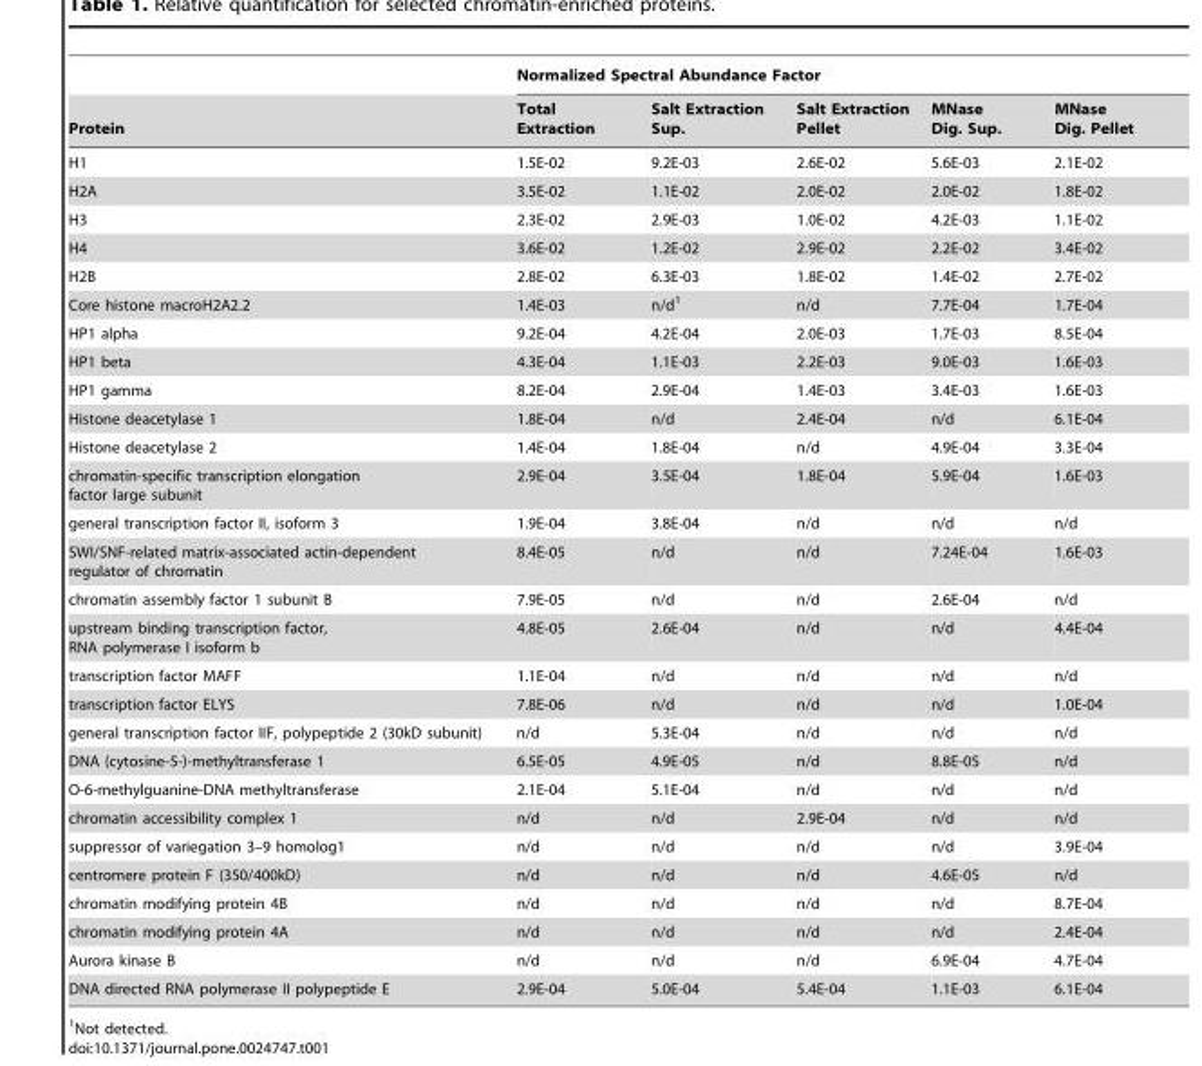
<table><thead><tr><td rowspan="2">Protein</td><td colspan="5">Normalized Spectral Abundance Factor</td></tr><tr><td>Total Extraction</td><td>Salt Extraction Sup.</td><td>Salt Extraction Pellet</td><td>MNase Dig. Sup.</td><td>MNase Dig. Pellet</td></tr></thead><tbody><tr><td>H1</td><td>1.5E-02</td><td>9.2E-03</td><td>2.6E-02</td><td>5.6E-03</td><td>2.1E-02</td></tr><tr><td>H2A</td><td>3.5E-02</td><td>1.1E-02</td><td>2.0E-02</td><td>2.0E-02</td><td>1.8E-02</td></tr><tr><td>H3</td><td>2.3E-02</td><td>2.9E-03</td><td>1.0E-02</td><td>4.2E-03</td><td>1.1E-02</td></tr><tr><td>H4</td><td>3.6E-02</td><td>1.2E-02</td><td>2.9E-02</td><td>2.2E-02</td><td>3.4E-02</td></tr><tr><td>H2B</td><td>2.8E-02</td><td>6.3E-03</td><td>1.8E-02</td><td>1.4E-02</td><td>2.7E-02</td></tr><tr><td>Core histone macroH2A2.2</td><td>1.4E-03</td><td>n/d<sup>1</sup></td><td>n/d</td><td>7.7E-04</td><td>1.7E-04</td></tr><tr><td>HP1 alpha</td><td>9.2E-04</td><td>4.2E-04</td><td>2.0E-03</td><td>1.7E-03</td><td>8.5E-04</td></tr><tr><td>HP1 beta</td><td>4.3E-04</td><td>1.1E-03</td><td>2.2E-03</td><td>9.0E-03</td><td>1.6E-03</td></tr><tr><td>HP1 gamma</td><td>8.2E-04</td><td>2.9E-04</td><td>1.4E-03</td><td>3.4E-03</td><td>1.6E-03</td></tr><tr><td>Histone deacetylase 1</td><td>1.8E-04</td><td>n/d</td><td>2.4E-04</td><td>n/d</td><td>6.1E-04</td></tr><tr><td>Histone deacetylase 2</td><td>1.4E-04</td><td>1.8E-04</td><td>n/d</td><td>4.9E-04</td><td>3.3E-04</td></tr><tr><td>chromatin-specific transcription elongation factor large subunit</td><td>2.9E-04</td><td>3.5E-04</td><td>1.8E-04</td><td>5.9E-04</td><td>1.6E-03</td></tr><tr><td>general transcription factor II, isoform 3</td><td>1.9E-04</td><td>3.8E-04</td><td>n/d</td><td>n/d</td><td>n/d</td></tr><tr><td>SWI/SNF-related matrix-associated actin-dependent regulator of chromatin</td><td>8.4E-05</td><td>n/d</td><td>n/d</td><td>7.24E-04</td><td>1.6E-03</td></tr><tr><td>chromatin assembly factor 1 subunit B</td><td>7.9E-05</td><td>n/d</td><td>n/d</td><td>2.6E-04</td><td>n/d</td></tr><tr><td>upstream binding transcription factor, RNA polymerase I isoform b</td><td>4.8E-05</td><td>2.6E-04</td><td>n/d</td><td>n/d</td><td>4.4E-04</td></tr><tr><td>transcription factor MAFF</td><td>1.1E-04</td><td>n/d</td><td>n/d</td><td>n/d</td><td>n/d</td></tr><tr><td>transcription factor ELYS</td><td>7.8E-06</td><td>n/d</td><td>n/d</td><td>n/d</td><td>1.0E-04</td></tr><tr><td>general transcription factor IIF, polypeptide 2 (30kD subunit)</td><td>n/d</td><td>5.3E-04</td><td>n/d</td><td>n/d</td><td>n/d</td></tr><tr><td>DNA (cytosine-5-)-methyltransferase 1</td><td>6.5E-05</td><td>4.9E-05</td><td>n/d</td><td>8.8E-05</td><td>n/d</td></tr><tr><td>O-6-methylguanine-DNA methyltransferase</td><td>2.1E-04</td><td>5.1E-04</td><td>n/d</td><td>n/d</td><td>n/d</td></tr><tr><td>chromatin accessibility complex 1</td><td>n/d</td><td>n/d</td><td>2.9E-04</td><td>n/d</td><td>n/d</td></tr><tr><td>suppressor of variegation 3–9 homolog1</td><td>n/d</td><td>n/d</td><td>n/d</td><td>n/d</td><td>3.9E-04</td></tr><tr><td>centromere protein F (350/400kD)</td><td>n/d</td><td>n/d</td><td>n/d</td><td>4.6E-05</td><td>n/d</td></tr><tr><td>chromatin modifying protein 4B</td><td>n/d</td><td>n/d</td><td>n/d</td><td>n/d</td><td>8.7E-04</td></tr><tr><td>chromatin modifying protein 4A</td><td>n/d</td><td>n/d</td><td>n/d</td><td>n/d</td><td>2.4E-04</td></tr><tr><td>Aurora kinase B</td><td>n/d</td><td>n/d</td><td>n/d</td><td>6.9E-04</td><td>4.7E-04</td></tr><tr><td>DNA directed RNA polymerase II polypeptide E</td><td>2.9E-04</td><td>5.0E-04</td><td>5.4E-04</td><td>1.1E-03</td><td>6.1E-04</td></tr></tbody></table>